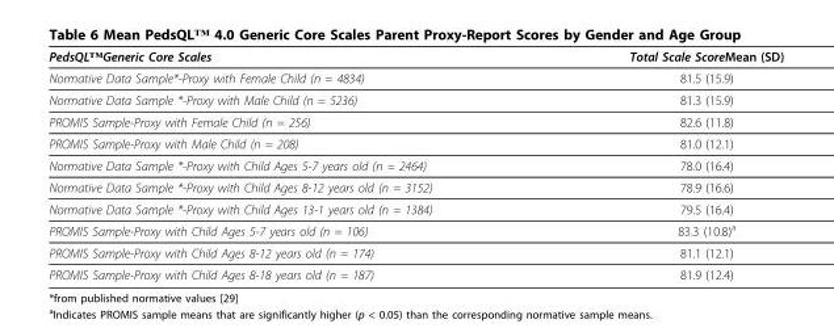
<table><thead><tr><td>PedsQL™Generic Core Scales</td><td>Total Scale ScoreMean (SD)</td></tr></thead><tbody><tr><td>Normative Data Sample*-Proxy with Female Child (n = 4834)</td><td>81.5 (15.9)</td></tr><tr><td>Normative Data Sample *-Proxy with Male Child (n = 5236)</td><td>81.3 (15.9)</td></tr><tr><td>PROMIS Sample-Proxy with Female Child (n = 256)</td><td>82.6 (11.8)</td></tr><tr><td>PROMIS Sample-Proxy with Male Child (n = 208)</td><td>81.0 (12.1)</td></tr><tr><td>Normative Data Sample *-Proxy with Child Ages 5-7 years old (n = 2464)</td><td>78.0 (16.4)</td></tr><tr><td>Normative Data Sample *-Proxy with Child Ages 8-12 years old (n = 3152)</td><td>78.9 (16.6)</td></tr><tr><td>Normative Data Sample *-Proxy with Child Ages 13-1 years old (n = 1384)</td><td>79.5 (16.4)</td></tr><tr><td>PROMIS Sample-Proxy with Child Ages 5-7 years old (n = 106)</td><td>83.3 (10.8)<sup>a</sup></td></tr><tr><td>PROMIS Sample-Proxy with Child Ages 8-12 years old (n = 174)</td><td>81.1 (12.1)</td></tr><tr><td>PROMIS Sample-Proxy with Child Ages 8-18 years old (n = 187)</td><td>81.9 (12.4)</td></tr></tbody></table>